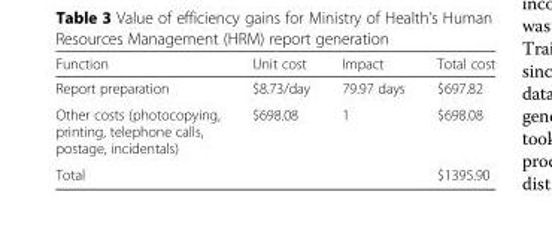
<table><thead><tr><td>Function</td><td>Unit cost</td><td>Impact</td><td>Total cost</td></tr></thead><tbody><tr><td>Report preparation</td><td>$8.73/day</td><td>79.97 days</td><td>$697.82</td></tr><tr><td>Other costs (photocopying, printing, telephone calls, postage, incidentals)</td><td>$698.08</td><td>1</td><td>$698.08</td></tr><tr><td colspan="3">Total</td><td>$1395.90</td></tr></tbody></table>